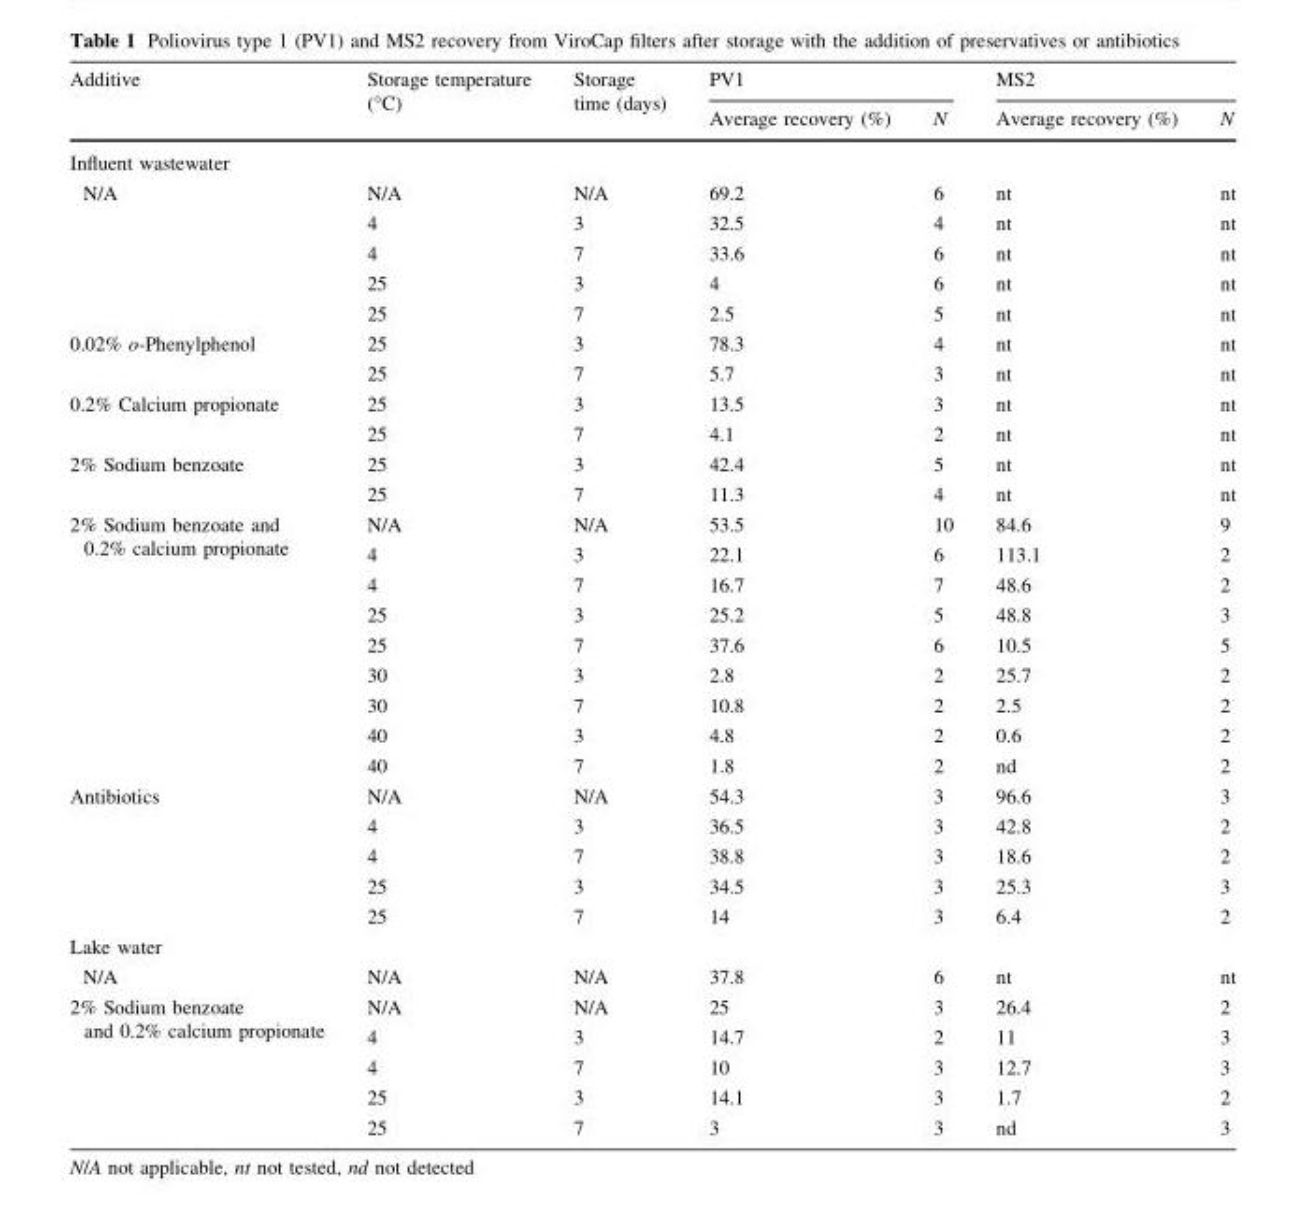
<table><thead><tr><td rowspan="2">Additive</td><td rowspan="2">Storage temperature (°C)</td><td rowspan="2">Storage time (days)</td><td colspan="2">PV1</td><td colspan="2">MS2</td></tr><tr><td>Average recovery (%)</td><td>N</td><td>Average recovery (%)</td><td>N</td></tr></thead><tbody><tr><td colspan="7">Influent wastewater</td></tr><tr><td rowspan="5">N/A</td><td>N/A</td><td>N/A</td><td>69.2</td><td>6</td><td>nt</td><td>nt</td></tr><tr><td>4</td><td>3</td><td>32.5</td><td>4</td><td>nt</td><td>nt</td></tr><tr><td>4</td><td>7</td><td>33.6</td><td>6</td><td>nt</td><td>nt</td></tr><tr><td>25</td><td>3</td><td>4</td><td>6</td><td>nt</td><td>nt</td></tr><tr><td>25</td><td>7</td><td>2.5</td><td>5</td><td>nt</td><td>nt</td></tr><tr><td rowspan="2">0.02% o-Phenylphenol</td><td>25</td><td>3</td><td>78.3</td><td>4</td><td>nt</td><td>nt</td></tr><tr><td>25</td><td>7</td><td>5.7</td><td>3</td><td>nt</td><td>nt</td></tr><tr><td rowspan="2">0.2% Calcium propionate</td><td>25</td><td>3</td><td>13.5</td><td>3</td><td>nt</td><td>nt</td></tr><tr><td>25</td><td>7</td><td>4.1</td><td>2</td><td>nt</td><td>nt</td></tr><tr><td rowspan="2">2% Sodium benzoate</td><td>25</td><td>3</td><td>42.4</td><td>5</td><td>nt</td><td>nt</td></tr><tr><td>25</td><td>7</td><td>11.3</td><td>4</td><td>nt</td><td>nt</td></tr><tr><td rowspan="9">2% Sodium benzoate and 0.2% calcium propionate</td><td>N/A</td><td>N/A</td><td>53.5</td><td>10</td><td>84.6</td><td>9</td></tr><tr><td>4</td><td>3</td><td>22.1</td><td>6</td><td>113.1</td><td>2</td></tr><tr><td>4</td><td>7</td><td>16.7</td><td>7</td><td>48.6</td><td>2</td></tr><tr><td>25</td><td>3</td><td>25.2</td><td>5</td><td>48.8</td><td>3</td></tr><tr><td>25</td><td>7</td><td>37.6</td><td>6</td><td>10.5</td><td>5</td></tr><tr><td>30</td><td>3</td><td>2.8</td><td>2</td><td>25.7</td><td>2</td></tr><tr><td>30</td><td>7</td><td>10.8</td><td>2</td><td>2.5</td><td>2</td></tr><tr><td>40</td><td>3</td><td>4.8</td><td>2</td><td>0.6</td><td>2</td></tr><tr><td>40</td><td>7</td><td>1.8</td><td>2</td><td>nd</td><td>2</td></tr><tr><td rowspan="5">Antibiotics</td><td>N/A</td><td>N/A</td><td>54.3</td><td>3</td><td>96.6</td><td>3</td></tr><tr><td>4</td><td>3</td><td>36.5</td><td>3</td><td>42.8</td><td>2</td></tr><tr><td>4</td><td>7</td><td>38.8</td><td>3</td><td>18.6</td><td>2</td></tr><tr><td>25</td><td>3</td><td>34.5</td><td>3</td><td>25.3</td><td>3</td></tr><tr><td>25</td><td>7</td><td>14</td><td>3</td><td>6.4</td><td>2</td></tr><tr><td colspan="7">Lake water</td></tr><tr><td>N/A</td><td>N/A</td><td>N/A</td><td>37.8</td><td>6</td><td>nt</td><td>nt</td></tr><tr><td rowspan="5">2% Sodium benzoate and 0.2% calcium propionate</td><td>N/A</td><td>N/A</td><td>25</td><td>3</td><td>26.4</td><td>2</td></tr><tr><td>4</td><td>3</td><td>14.7</td><td>2</td><td>11</td><td>3</td></tr><tr><td>4</td><td>7</td><td>10</td><td>3</td><td>12.7</td><td>3</td></tr><tr><td>25</td><td>3</td><td>14.1</td><td>3</td><td>1.7</td><td>2</td></tr><tr><td>25</td><td>7</td><td>3</td><td>3</td><td>nd</td><td>3</td></tr></tbody></table>